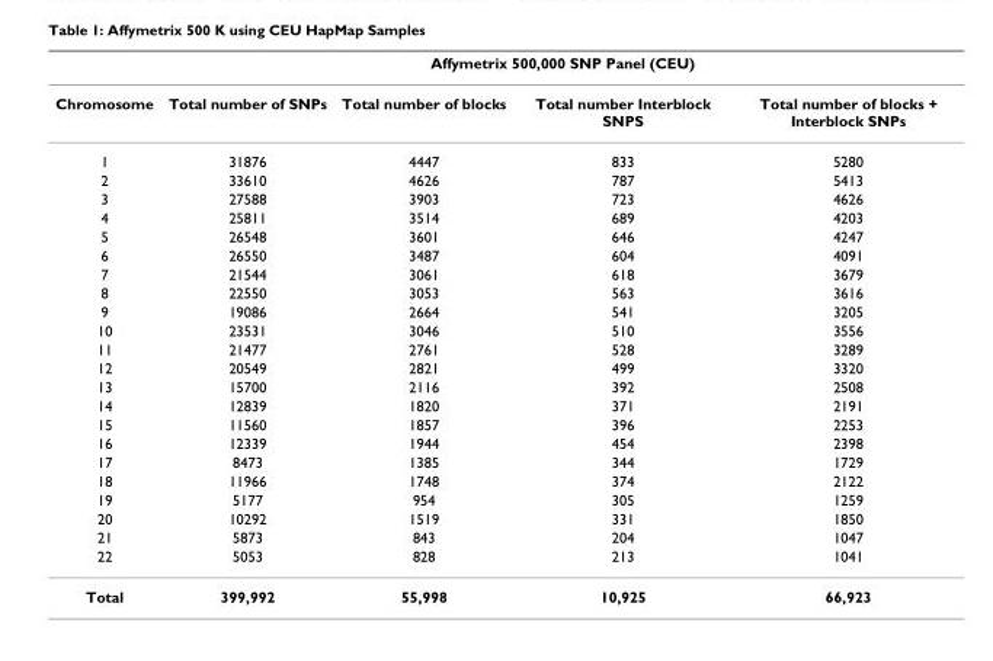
<table><thead><tr><td rowspan="2">Chromosome</td><td colspan="4">Affymetrix 500,000 SNP Panel (CEU)</td></tr><tr><td>Total number of SNPs</td><td>Total number of blocks</td><td>Total number Interblock SNPS</td><td>Total number of blocks + Interblock SNPs</td></tr></thead><tbody><tr><td>1</td><td>31876</td><td>4447</td><td>833</td><td>5280</td></tr><tr><td>2</td><td>33610</td><td>4626</td><td>787</td><td>5413</td></tr><tr><td>3</td><td>27588</td><td>3903</td><td>723</td><td>4626</td></tr><tr><td>4</td><td>25811</td><td>3514</td><td>689</td><td>4203</td></tr><tr><td>5</td><td>26548</td><td>3601</td><td>646</td><td>4247</td></tr><tr><td>6</td><td>26550</td><td>3487</td><td>604</td><td>4091</td></tr><tr><td>7</td><td>21544</td><td>3061</td><td>618</td><td>3679</td></tr><tr><td>8</td><td>22550</td><td>3053</td><td>563</td><td>3616</td></tr><tr><td>9</td><td>19086</td><td>2664</td><td>541</td><td>3205</td></tr><tr><td>10</td><td>23531</td><td>3046</td><td>510</td><td>3556</td></tr><tr><td>11</td><td>21477</td><td>2761</td><td>528</td><td>3289</td></tr><tr><td>12</td><td>20549</td><td>2821</td><td>499</td><td>3320</td></tr><tr><td>13</td><td>15700</td><td>2116</td><td>392</td><td>2508</td></tr><tr><td>14</td><td>12839</td><td>1820</td><td>371</td><td>2191</td></tr><tr><td>15</td><td>11560</td><td>1857</td><td>396</td><td>2253</td></tr><tr><td>16</td><td>12339</td><td>1944</td><td>454</td><td>2398</td></tr><tr><td>17</td><td>8473</td><td>1385</td><td>344</td><td>1729</td></tr><tr><td>18</td><td>11966</td><td>1748</td><td>374</td><td>2122</td></tr><tr><td>19</td><td>5177</td><td>954</td><td>305</td><td>1259</td></tr><tr><td>20</td><td>10292</td><td>1519</td><td>331</td><td>1850</td></tr><tr><td>21</td><td>5873</td><td>843</td><td>204</td><td>1047</td></tr><tr><td>22</td><td>5053</td><td>828</td><td>213</td><td>1041</td></tr><tr><td>Total</td><td>399,992</td><td>55,998</td><td>10,925</td><td>66,923</td></tr></tbody></table>